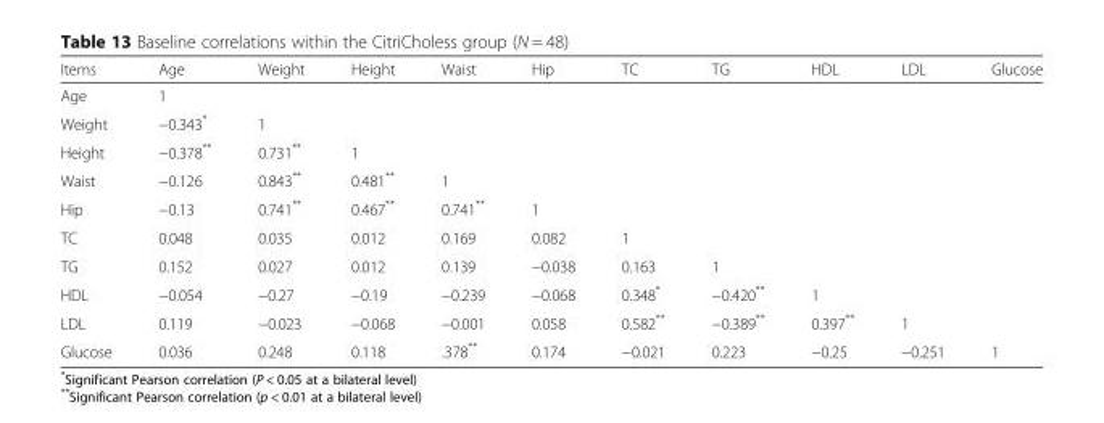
<table><thead><tr><td>Items</td><td>Age</td><td>Weight</td><td>Height</td><td>Waist</td><td>Hip</td><td>TC</td><td>TG</td><td>HDL</td><td>LDL</td><td>Glucose</td></tr></thead><tbody><tr><td>Age</td><td>1</td><td></td><td></td><td></td><td></td><td></td><td></td><td></td><td></td><td></td></tr><tr><td>Weight</td><td>−0.343*</td><td>1</td><td></td><td></td><td></td><td></td><td></td><td></td><td></td><td></td></tr><tr><td>Height</td><td>−0.378**</td><td>0.731**</td><td>1</td><td></td><td></td><td></td><td></td><td></td><td></td><td></td></tr><tr><td>Waist</td><td>−0.126</td><td>0.843**</td><td>0.481**</td><td>1</td><td></td><td></td><td></td><td></td><td></td><td></td></tr><tr><td>Hip</td><td>−0.13</td><td>0.741**</td><td>0.467**</td><td>0.741**</td><td>1</td><td></td><td></td><td></td><td></td><td></td></tr><tr><td>TC</td><td>0.048</td><td>0.035</td><td>0.012</td><td>0.169</td><td>0.082</td><td>1</td><td></td><td></td><td></td><td></td></tr><tr><td>TG</td><td>0.152</td><td>0.027</td><td>0.012</td><td>0.139</td><td>−0.038</td><td>0.163</td><td>1</td><td></td><td></td><td></td></tr><tr><td>HDL</td><td>−0.054</td><td>−0.27</td><td>−0.19</td><td>−0.239</td><td>−0.068</td><td>0.348*</td><td>−0.420**</td><td>1</td><td></td><td></td></tr><tr><td>LDL</td><td>0.119</td><td>−0.023</td><td>−0.068</td><td>−0.001</td><td>0.058</td><td>0.582**</td><td>−0.389**</td><td>0.397**</td><td>1</td><td></td></tr><tr><td>Glucose</td><td>0.036</td><td>0.248</td><td>0.118</td><td>.378**</td><td>0.174</td><td>−0.021</td><td>0.223</td><td>−0.25</td><td>−0.251</td><td>1</td></tr></tbody></table>